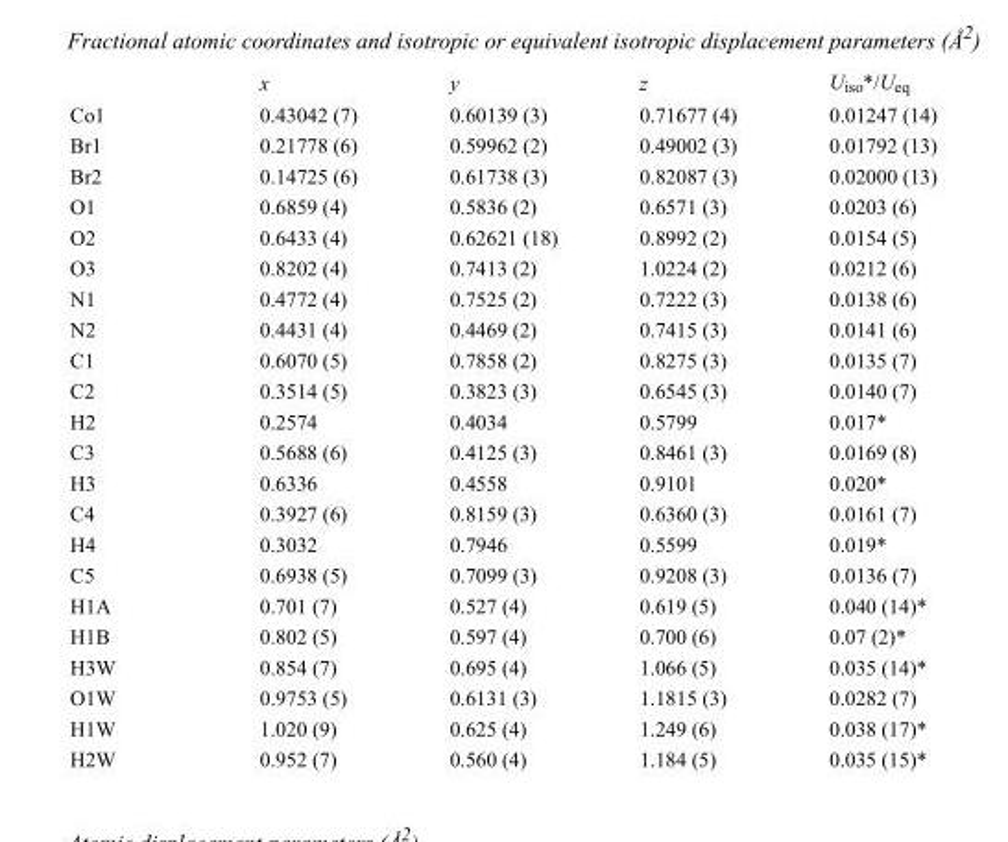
<table><thead><tr><td></td><td>x</td><td>y</td><td>z</td><td>U<sub>iso</sub>*/U<sub>eq</sub></td></tr></thead><tbody><tr><td>Co1</td><td>0.43042 (7)</td><td>0.60139 (3)</td><td>0.71677 (4)</td><td>0.01247 (14)</td></tr><tr><td>Br1</td><td>0.21778 (6)</td><td>0.59962 (2)</td><td>0.49002 (3)</td><td>0.01792 (13)</td></tr><tr><td>Br2</td><td>0.14725 (6)</td><td>0.61738 (3)</td><td>0.82087 (3)</td><td>0.02000 (13)</td></tr><tr><td>O1</td><td>0.6859 (4)</td><td>0.5836 (2)</td><td>0.6571 (3)</td><td>0.0203 (6)</td></tr><tr><td>O2</td><td>0.6433 (4)</td><td>0.62621 (18)</td><td>0.8992 (2)</td><td>0.0154 (5)</td></tr><tr><td>O3</td><td>0.8202 (4)</td><td>0.7413 (2)</td><td>1.0224 (2)</td><td>0.0212 (6)</td></tr><tr><td>N1</td><td>0.4772 (4)</td><td>0.7525 (2)</td><td>0.7222 (3)</td><td>0.0138 (6)</td></tr><tr><td>N2</td><td>0.4431 (4)</td><td>0.4469 (2)</td><td>0.7415 (3)</td><td>0.0141 (6)</td></tr><tr><td>C1</td><td>0.6070 (5)</td><td>0.7858 (2)</td><td>0.8275 (3)</td><td>0.0135 (7)</td></tr><tr><td>C2</td><td>0.3514 (5)</td><td>0.3823 (3)</td><td>0.6545 (3)</td><td>0.0140 (7)</td></tr><tr><td>H2</td><td>0.2574</td><td>0.4034</td><td>0.5799</td><td>0.017*</td></tr><tr><td>C3</td><td>0.5688 (6)</td><td>0.4125 (3)</td><td>0.8461 (3)</td><td>0.0169 (8)</td></tr><tr><td>H3</td><td>0.6336</td><td>0.4558</td><td>0.9101</td><td>0.020*</td></tr><tr><td>C4</td><td>0.3927 (6)</td><td>0.8159 (3)</td><td>0.6360 (3)</td><td>0.0161 (7)</td></tr><tr><td>H4</td><td>0.3032</td><td>0.7946</td><td>0.5599</td><td>0.019*</td></tr><tr><td>C5</td><td>0.6938 (5)</td><td>0.7099 (3)</td><td>0.9208 (3)</td><td>0.0136 (7)</td></tr><tr><td>H1A</td><td>0.701 (7)</td><td>0.527 (4)</td><td>0.619 (5)</td><td>0.040 (14)*</td></tr><tr><td>H1B</td><td>0.802 (5)</td><td>0.597 (4)</td><td>0.700 (6)</td><td>0.07 (2)*</td></tr><tr><td>H3W</td><td>0.854 (7)</td><td>0.695 (4)</td><td>1.066 (5)</td><td>0.035 (14)*</td></tr><tr><td>O1W</td><td>0.9753 (5)</td><td>0.6131 (3)</td><td>1.1815 (3)</td><td>0.0282 (7)</td></tr><tr><td>H1W</td><td>1.020 (9)</td><td>0.625 (4)</td><td>1.249 (6)</td><td>0.038 (17)*</td></tr><tr><td>H2W</td><td>0.952 (7)</td><td>0.560 (4)</td><td>1.184 (5)</td><td>0.035 (15)*</td></tr></tbody></table>